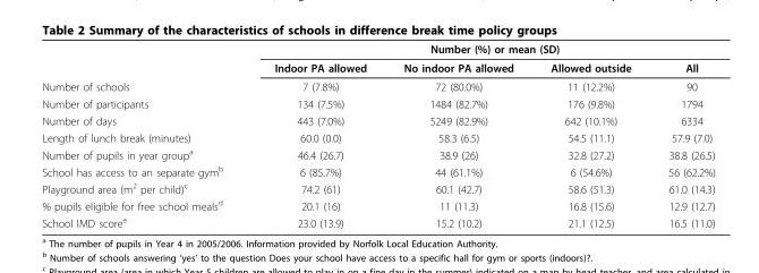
<table><thead><tr><td rowspan="2"></td><td colspan="4">Number (%) or mean (SD)</td></tr><tr><td>Indoor PA allowed</td><td>No indoor PA allowed</td><td>Allowed outside</td><td>All</td></tr></thead><tbody><tr><td>Number of schools</td><td>7 (7.8%)</td><td>72 (80.0%)</td><td>11 (12.2%)</td><td>90</td></tr><tr><td>Number of participants</td><td>134 (7.5%)</td><td>1484 (82.7%)</td><td>176 (9.8%)</td><td>1794</td></tr><tr><td>Number of days</td><td>443 (7.0%)</td><td>5249 (82.9%)</td><td>642 (10.1%)</td><td>6334</td></tr><tr><td>Length of lunch break (minutes)</td><td>60.0 (0.0)</td><td>58.3 (6.5)</td><td>54.5 (11.1)</td><td>57.9 (7.0)</td></tr><tr><td>Number of pupils in year group<sup>a</sup></td><td>46.4 (26.7)</td><td>38.9 (26)</td><td>32.8 (27.2)</td><td>38.8 (26.5)</td></tr><tr><td>School has access to an separate gym<sup>b</sup></td><td>6 (85.7%)</td><td>44 (61.1%)</td><td>6 (54.6%)</td><td>56 (62.2%)</td></tr><tr><td>Playground area (m<sup>2</sup> per child)<sup>c</sup></td><td>74.2 (61)</td><td>60.1 (42.7)</td><td>58.6 (51.3)</td><td>61.0 (14.3)</td></tr><tr><td>% pupils eligible for free school meals<sup>d</sup></td><td>20.1 (16)</td><td>11 (11.3)</td><td>16.8 (15.6)</td><td>12.9 (12.7)</td></tr><tr><td>School IMD score<sup>e</sup></td><td>23.0 (13.9)</td><td>15.2 (10.2)</td><td>21.1 (12.5)</td><td>16.5 (11.0)</td></tr></tbody></table>